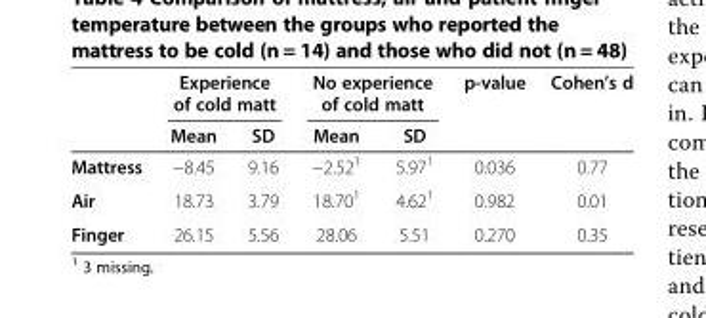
<table><thead><tr><td rowspan="2"></td><td colspan="2">Experience of cold matt</td><td colspan="2">No experience of cold matt</td><td rowspan="2">p-value</td><td rowspan="2">Cohen’s d</td></tr><tr><td>Mean</td><td>SD</td><td>Mean</td><td>SD</td></tr></thead><tbody><tr><td>Mattress</td><td>−8.45</td><td>9.16</td><td>−2.52<sup>1</sup></td><td>5.97<sup>1</sup></td><td>0.036</td><td>0.77</td></tr><tr><td>Air</td><td>18.73</td><td>3.79</td><td>18.70<sup>1</sup></td><td>4.62<sup>1</sup></td><td>0.982</td><td>0.01</td></tr><tr><td>Finger</td><td>26.15</td><td>5.56</td><td>28.06</td><td>5.51</td><td>0.270</td><td>0.35</td></tr></tbody></table>